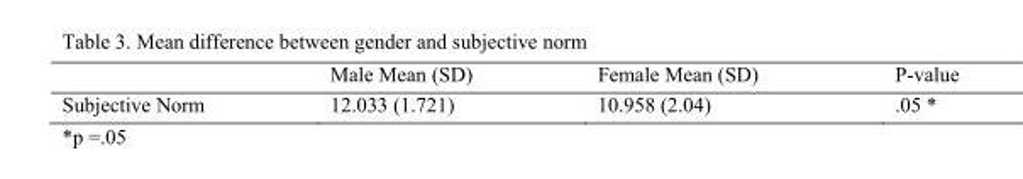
<table><thead><tr><td></td><td>Male Mean (SD)</td><td>Female Mean (SD)</td><td>P-value</td></tr></thead><tbody><tr><td>Subjective Norm</td><td>12.033 (1.721)</td><td>10.958 (2.04)</td><td>.05 *</td></tr></tbody></table>